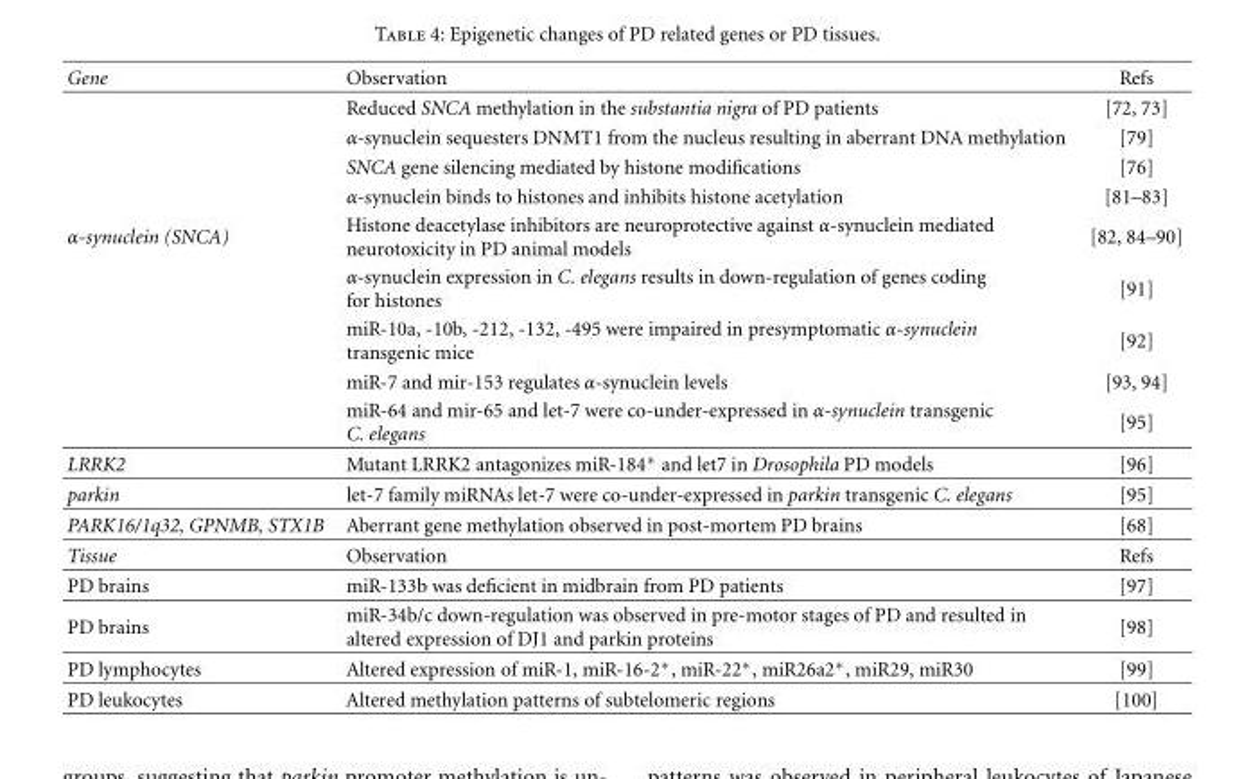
<table><thead><tr><td>Gene</td><td>Observation</td><td>Refs</td></tr></thead><tbody><tr><td></td><td>Reduced SNCA methylation in the substantia nigra of PD patients</td><td>[72, 73]</td></tr><tr><td></td><td>α-synuclein sequesters DNMT1 from the nucleus resulting in aberrant DNA methylation</td><td>[79]</td></tr><tr><td></td><td>SNCA gene silencing mediated by histone modifications</td><td>[76]</td></tr><tr><td></td><td>α-synuclein binds to histones and inhibits histone acetylation</td><td>[81–83]</td></tr><tr><td rowspan="5">α-synuclein (SNCA)</td><td>Histone deacetylase inhibitors are neuroprotective against α-synuclein mediated neurotoxicity in PD animal models</td><td>[82, 84–90]</td></tr><tr><td>α-synuclein expression in C. elegans results in down-regulation of genes coding for histones</td><td>[91]</td></tr><tr><td>miR-10a, -10b, -212, -132, -495 were impaired in presymptomatic α-synuclein transgenic mice</td><td>[92]</td></tr><tr><td>miR-7 and mir-153 regulates α-synuclein levels</td><td>[93, 94]</td></tr><tr><td>miR-64 and mir-65 and let-7 were co-under-expressed in α-synuclein transgenic C. elegans</td><td>[95]</td></tr><tr><td>LRRK2</td><td>Mutant LRRK2 antagonizes miR-184∗ and let7 in Drosophila PD models</td><td>[96]</td></tr><tr><td>parkin</td><td>let-7 family miRNAs let-7 were co-under-expressed in parkin transgenic C. elegans</td><td>[95]</td></tr><tr><td>PARK16/1q32, GPNMB, STX1B</td><td>Aberrant gene methylation observed in post-mortem PD brains</td><td>[68]</td></tr><tr><td>Tissue</td><td>Observation</td><td>Refs</td></tr><tr><td>PD brains</td><td>miR-133b was deficient in midbrain from PD patients</td><td>[97]</td></tr><tr><td>PD brains</td><td>miR-34b/c down-regulation was observed in pre-motor stages of PD and resulted in altered expression of DJ1 and parkin proteins</td><td>[98]</td></tr><tr><td>PD lymphocytes</td><td>Altered expression of miR-1, miR-16-2∗, miR-22∗, miR26a2∗, miR29, miR30</td><td>[99]</td></tr><tr><td>PD leukocytes</td><td>Altered methylation patterns of subtelomeric regions</td><td>[100]</td></tr></tbody></table>